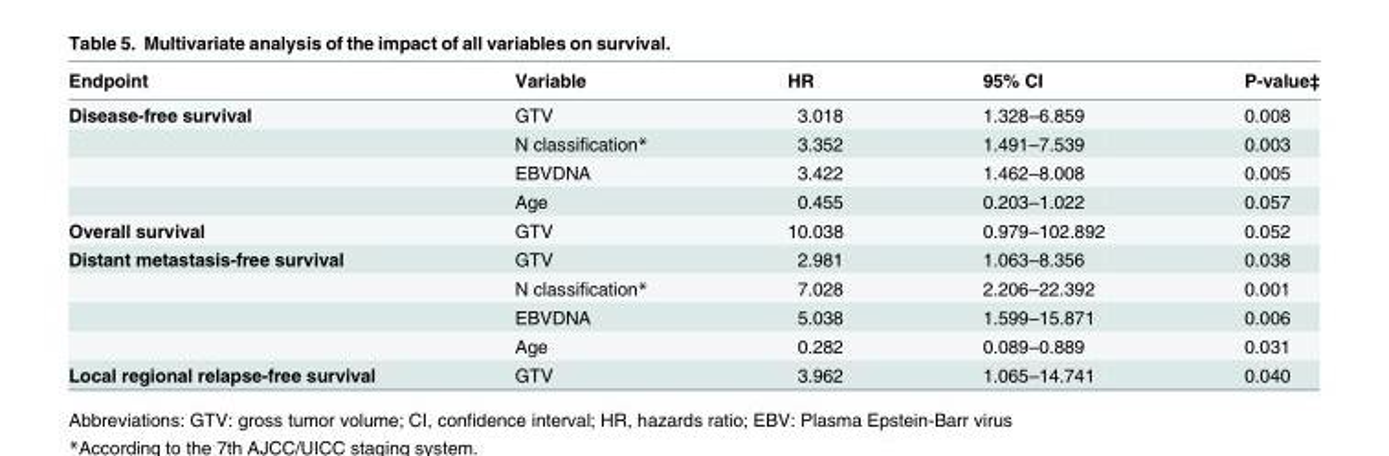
<table><thead><tr><td>Endpoint</td><td>Variable</td><td>HR</td><td>95% CI</td><td>P-value‡</td></tr></thead><tbody><tr><td rowspan="4">Disease-free survival</td><td>GTV</td><td>3.018</td><td>1.328–6.859</td><td>0.008</td></tr><tr><td>N classification*</td><td>3.352</td><td>1.491–7.539</td><td>0.003</td></tr><tr><td>EBVDNA</td><td>3.422</td><td>1.462–8.008</td><td>0.005</td></tr><tr><td>Age</td><td>0.455</td><td>0.203–1.022</td><td>0.057</td></tr><tr><td>Overall survival</td><td>GTV</td><td>10.038</td><td>0.979–102.892</td><td>0.052</td></tr><tr><td rowspan="4">Distant metastasis-free survival</td><td>GTV</td><td>2.981</td><td>1.063–8.356</td><td>0.038</td></tr><tr><td>N classification*</td><td>7.028</td><td>2.206–22.392</td><td>0.001</td></tr><tr><td>EBVDNA</td><td>5.038</td><td>1.599–15.871</td><td>0.006</td></tr><tr><td>Age</td><td>0.282</td><td>0.089–0.889</td><td>0.031</td></tr><tr><td>Local regional relapse-free survival</td><td>GTV</td><td>3.962</td><td>1.065–14.741</td><td>0.040</td></tr></tbody></table>